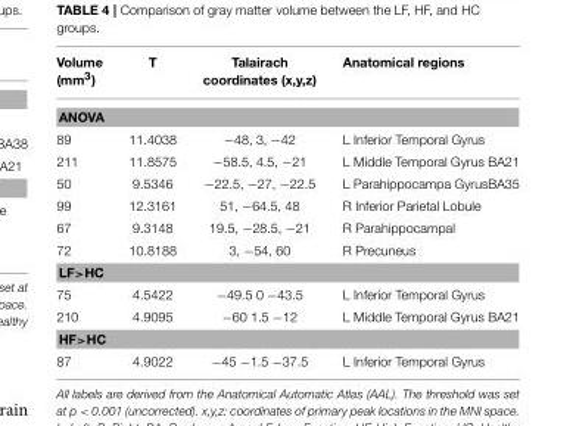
<table><thead><tr><td>Volume (mm<sup>3</sup>)</td><td>T</td><td>Talairach coordinates (x,y,z)</td><td>Anatomical regions</td></tr></thead><tbody><tr><td colspan="4">ANOVA</td></tr><tr><td>89</td><td>11.4038</td><td>−48, 3, −42</td><td>L Inferior Temporal Gyrus</td></tr><tr><td>211</td><td>11.8575</td><td>−58.5, 4.5, −21</td><td>L Middle Temporal Gyrus BA21</td></tr><tr><td>50</td><td>9.5346</td><td>−22.5, −27, −22.5</td><td>L Parahippocampa GyrusBA35</td></tr><tr><td>99</td><td>12.3161</td><td>51, −64.5, 48</td><td>R Inferior Parietal Lobule</td></tr><tr><td>67</td><td>9.3148</td><td>19.5, −28.5, −21</td><td>R Parahippocampal</td></tr><tr><td>72</td><td>10.8188</td><td>3, −54, 60</td><td>R Precuneus</td></tr><tr><td colspan="4">LF&gt;HC</td></tr><tr><td>75</td><td>4.5422</td><td>−49.5 0 −43.5</td><td>L Inferior Temporal Gyrus</td></tr><tr><td>210</td><td>4.9095</td><td>−60 1.5 −12</td><td>L Middle Temporal Gyrus BA21</td></tr><tr><td colspan="4">HF&gt;HC</td></tr><tr><td>87</td><td>4.9022</td><td>−45 −1.5 −37.5</td><td>L Inferior Temporal Gyrus</td></tr></tbody></table>